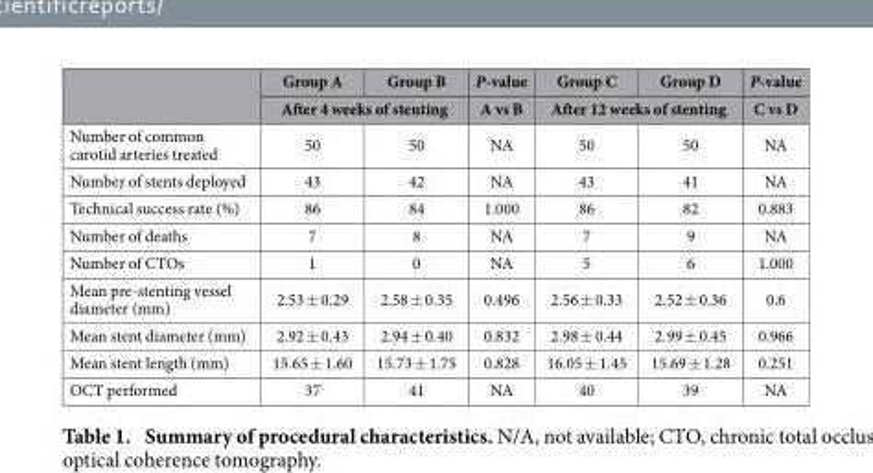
<table><thead><tr><td rowspan="2"></td><td>Group A</td><td>Group B</td><td rowspan="2">P-value A vs B</td><td>Group C</td><td>Group D</td><td rowspan="2">P-value C vs D</td></tr><tr><td colspan="2">After 4 weeks of stenting</td><td colspan="2">After 12 weeks of stenting</td></tr></thead><tbody><tr><td>Number of common carotid arteries treated</td><td>50</td><td>50</td><td>NA</td><td>50</td><td>50</td><td>NA</td></tr><tr><td>Number of stents deployed</td><td>43</td><td>42</td><td>NA</td><td>43</td><td>41</td><td>NA</td></tr><tr><td>Technical success rate (%)</td><td>86</td><td>84</td><td>1.000</td><td>86</td><td>82</td><td>0.883</td></tr><tr><td>Number of deaths</td><td>7</td><td>8</td><td>NA</td><td>7</td><td>9</td><td>NA</td></tr><tr><td>Number of CTOs</td><td>1</td><td>0</td><td>NA</td><td>5</td><td>6</td><td>1.000</td></tr><tr><td>Mean pre-stenting vessel diameter (mm)</td><td>2.53 ± 0.29</td><td>2.58 ± 0.35</td><td>0.496</td><td>2.56 ± 0.33</td><td>2.52 ± 0.36</td><td>0.6</td></tr><tr><td>Mean stent diameter (mm)</td><td>2.92 ± 0.43</td><td>2.94 ± 0.40</td><td>0.832</td><td>2.98 ± 0.44</td><td>2.99 ± 0.45</td><td>0.966</td></tr><tr><td>Mean stent length (mm)</td><td>15.65 ± 1.60</td><td>15.73 ± 1.75</td><td>0.828</td><td>16.05 ± 1.45</td><td>15.69 ± 1.28</td><td>0.251</td></tr><tr><td>OCT performed</td><td>37</td><td>41</td><td>NA</td><td>40</td><td>39</td><td>NA</td></tr></tbody></table>